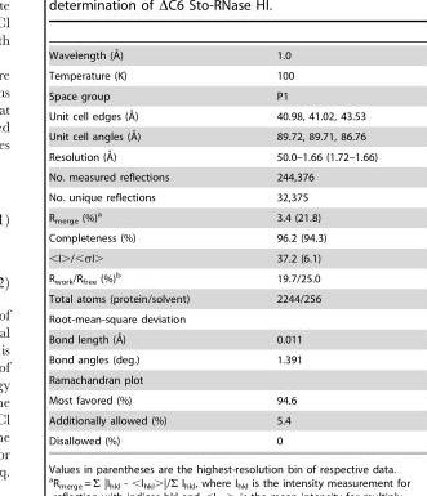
<table><tbody><tr><td>Wavelength (A˚)</td><td>1.0</td></tr><tr><td>Temperature (K)</td><td>100</td></tr><tr><td>Space group</td><td>P1</td></tr><tr><td>Unit cell edges (A˚)</td><td>40.98, 41.02, 43.53</td></tr><tr><td>Unit cell angles (A˚)</td><td>89.72, 89.71, 86.76</td></tr><tr><td>Resolution (A˚)</td><td>50.0–1.66 (1.72–1.66)</td></tr><tr><td>No. measured reflections</td><td>244,376</td></tr><tr><td>No. unique reflections</td><td>32,375</td></tr><tr><td>R<sub>merge</sub> (%)<sup>a</sup></td><td>3.4 (21.8)</td></tr><tr><td>Completeness (%)</td><td>96.2 (94.3)</td></tr><tr><td>&lt;I&gt;/&lt;σI&gt;</td><td>37.2 (6.1)</td></tr><tr><td>R<sub>work</sub>/R<sub>free</sub> (%)<sup>b</sup></td><td>19.7/25.0</td></tr><tr><td>Total atoms (protein/solvent)</td><td>2244/256</td></tr><tr><td colspan="2">Root-mean-square deviation</td></tr><tr><td>Bond length (A˚)</td><td>0.011</td></tr><tr><td>Bond angles (deg.)</td><td>1.391</td></tr><tr><td colspan="2">Ramachandran plot</td></tr><tr><td>Most favored (%)</td><td>94.6</td></tr><tr><td>Additionally allowed (%)</td><td>5.4</td></tr><tr><td>Disallowed (%)</td><td>0</td></tr></tbody></table>